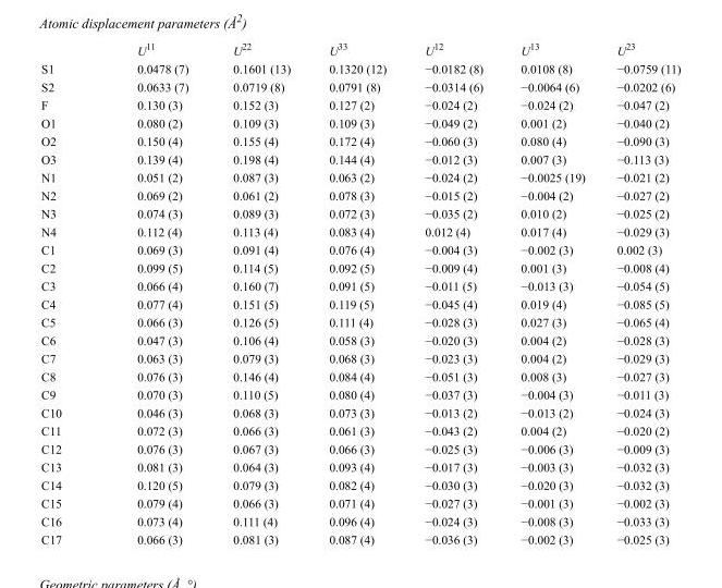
<table><thead><tr><td></td><td>U<sup>11</sup></td><td>U<sup>22</sup></td><td>U<sup>33</sup></td><td>U<sup>12</sup></td><td>U<sup>13</sup></td><td>U<sup>23</sup></td></tr></thead><tbody><tr><td>S1</td><td>0.0478 (7)</td><td>0.1601 (13)</td><td>0.1320 (12)</td><td>−0.0182 (8)</td><td>0.0108 (8)</td><td>−0.0759 (11)</td></tr><tr><td>S2</td><td>0.0633 (7)</td><td>0.0719 (8)</td><td>0.0791 (8)</td><td>−0.0314 (6)</td><td>−0.0064 (6)</td><td>−0.0202 (6)</td></tr><tr><td>F</td><td>0.130 (3)</td><td>0.152 (3)</td><td>0.127 (2)</td><td>−0.024 (2)</td><td>−0.024 (2)</td><td>−0.047 (2)</td></tr><tr><td>O1</td><td>0.080 (2)</td><td>0.109 (3)</td><td>0.109 (3)</td><td>−0.049 (2)</td><td>0.001 (2)</td><td>−0.040 (2)</td></tr><tr><td>O2</td><td>0.150 (4)</td><td>0.155 (4)</td><td>0.172 (4)</td><td>−0.060 (3)</td><td>0.080 (4)</td><td>−0.090 (3)</td></tr><tr><td>O3</td><td>0.139 (4)</td><td>0.198 (4)</td><td>0.144 (4)</td><td>−0.012 (3)</td><td>0.007 (3)</td><td>−0.113 (3)</td></tr><tr><td>N1</td><td>0.051 (2)</td><td>0.087 (3)</td><td>0.063 (2)</td><td>−0.024 (2)</td><td>−0.0025 (19)</td><td>−0.021 (2)</td></tr><tr><td>N2</td><td>0.069 (2)</td><td>0.061 (2)</td><td>0.078 (3)</td><td>−0.015 (2)</td><td>−0.004 (2)</td><td>−0.027 (2)</td></tr><tr><td>N3</td><td>0.074 (3)</td><td>0.089 (3)</td><td>0.072 (3)</td><td>−0.035 (2)</td><td>0.010 (2)</td><td>−0.025 (2)</td></tr><tr><td>N4</td><td>0.112 (4)</td><td>0.113 (4)</td><td>0.083 (4)</td><td>0.012 (4)</td><td>0.017 (4)</td><td>−0.029 (3)</td></tr><tr><td>C1</td><td>0.069 (3)</td><td>0.091 (4)</td><td>0.076 (4)</td><td>−0.004 (3)</td><td>−0.002 (3)</td><td>0.002 (3)</td></tr><tr><td>C2</td><td>0.099 (5)</td><td>0.114 (5)</td><td>0.092 (5)</td><td>−0.009 (4)</td><td>0.001 (3)</td><td>−0.008 (4)</td></tr><tr><td>C3</td><td>0.066 (4)</td><td>0.160 (7)</td><td>0.091 (5)</td><td>−0.011 (5)</td><td>−0.013 (3)</td><td>−0.054 (5)</td></tr><tr><td>C4</td><td>0.077 (4)</td><td>0.151 (5)</td><td>0.119 (5)</td><td>−0.045 (4)</td><td>0.019 (4)</td><td>−0.085 (5)</td></tr><tr><td>C5</td><td>0.066 (3)</td><td>0.126 (5)</td><td>0.111 (4)</td><td>−0.028 (3)</td><td>0.027 (3)</td><td>−0.065 (4)</td></tr><tr><td>C6</td><td>0.047 (3)</td><td>0.106 (4)</td><td>0.058 (3)</td><td>−0.020 (3)</td><td>0.004 (2)</td><td>−0.028 (3)</td></tr><tr><td>C7</td><td>0.063 (3)</td><td>0.079 (3)</td><td>0.068 (3)</td><td>−0.023 (3)</td><td>0.004 (2)</td><td>−0.029 (3)</td></tr><tr><td>C8</td><td>0.076 (3)</td><td>0.146 (4)</td><td>0.084 (4)</td><td>−0.051 (3)</td><td>0.008 (3)</td><td>−0.027 (3)</td></tr><tr><td>C9</td><td>0.070 (3)</td><td>0.110 (5)</td><td>0.080 (4)</td><td>−0.037 (3)</td><td>−0.004 (3)</td><td>−0.011 (3)</td></tr><tr><td>C10</td><td>0.046 (3)</td><td>0.068 (3)</td><td>0.073 (3)</td><td>−0.013 (2)</td><td>−0.013 (2)</td><td>−0.024 (3)</td></tr><tr><td>C11</td><td>0.072 (3)</td><td>0.066 (3)</td><td>0.061 (3)</td><td>−0.043 (2)</td><td>0.004 (2)</td><td>−0.020 (2)</td></tr><tr><td>C12</td><td>0.076 (3)</td><td>0.067 (3)</td><td>0.066 (3)</td><td>−0.025 (3)</td><td>−0.006 (3)</td><td>−0.009 (3)</td></tr><tr><td>C13</td><td>0.081 (3)</td><td>0.064 (3)</td><td>0.093 (4)</td><td>−0.017 (3)</td><td>−0.003 (3)</td><td>−0.032 (3)</td></tr><tr><td>C14</td><td>0.120 (5)</td><td>0.079 (3)</td><td>0.082 (4)</td><td>−0.030 (3)</td><td>−0.020 (3)</td><td>−0.032 (3)</td></tr><tr><td>C15</td><td>0.079 (4)</td><td>0.066 (3)</td><td>0.071 (4)</td><td>−0.027 (3)</td><td>−0.001 (3)</td><td>−0.002 (3)</td></tr><tr><td>C16</td><td>0.073 (4)</td><td>0.111 (4)</td><td>0.096 (4)</td><td>−0.024 (3)</td><td>−0.008 (3)</td><td>−0.033 (3)</td></tr><tr><td>C17</td><td>0.066 (3)</td><td>0.081 (3)</td><td>0.087 (4)</td><td>−0.036 (3)</td><td>−0.002 (3)</td><td>−0.025 (3)</td></tr></tbody></table>